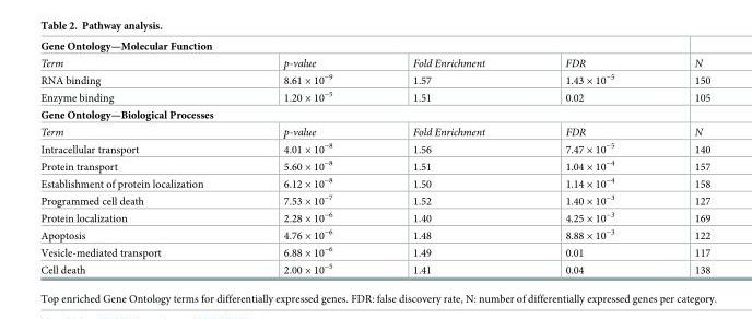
<table><tbody><tr><td colspan="5">Gene Ontology—Molecular Function</td></tr><tr><td>Term</td><td>p-value</td><td>Fold Enrichment</td><td>FDR</td><td>N</td></tr><tr><td>RNA binding</td><td>8.61 × 10<sup>−9</sup></td><td>1.57</td><td>1.43 × 10<sup>−5</sup></td><td>150</td></tr><tr><td>Enzyme binding</td><td>1.20 × 10<sup>−5</sup></td><td>1.51</td><td>0.02</td><td>105</td></tr><tr><td colspan="5">Gene Ontology—Biological Processes</td></tr><tr><td>Term</td><td>p-value</td><td>Fold Enrichment</td><td>FDR</td><td>N</td></tr><tr><td>Intracellular transport</td><td>4.01 × 10<sup>−8</sup></td><td>1.56</td><td>7.47 × 10<sup>−5</sup></td><td>140</td></tr><tr><td>Protein transport</td><td>5.60 × 10<sup>−8</sup></td><td>1.51</td><td>1.04 × 10<sup>−4</sup></td><td>157</td></tr><tr><td>Establishment of protein localization</td><td>6.12 × 10<sup>−8</sup></td><td>1.50</td><td>1.14 × 10<sup>−4</sup></td><td>158</td></tr><tr><td>Programmed cell death</td><td>7.53 × 10<sup>−7</sup></td><td>1.52</td><td>1.40 × 10<sup>−3</sup></td><td>127</td></tr><tr><td>Protein localization</td><td>2.28 × 10<sup>−6</sup></td><td>1.40</td><td>4.25 × 10<sup>−3</sup></td><td>169</td></tr><tr><td>Apoptosis</td><td>4.76 × 10<sup>−6</sup></td><td>1.48</td><td>8.88 × 10<sup>−3</sup></td><td>122</td></tr><tr><td>Vesicle-mediated transport</td><td>6.88 × 10<sup>−6</sup></td><td>1.49</td><td>0.01</td><td>117</td></tr><tr><td>Cell death</td><td>2.00 × 10<sup>−5</sup></td><td>1.41</td><td>0.04</td><td>138</td></tr></tbody></table>